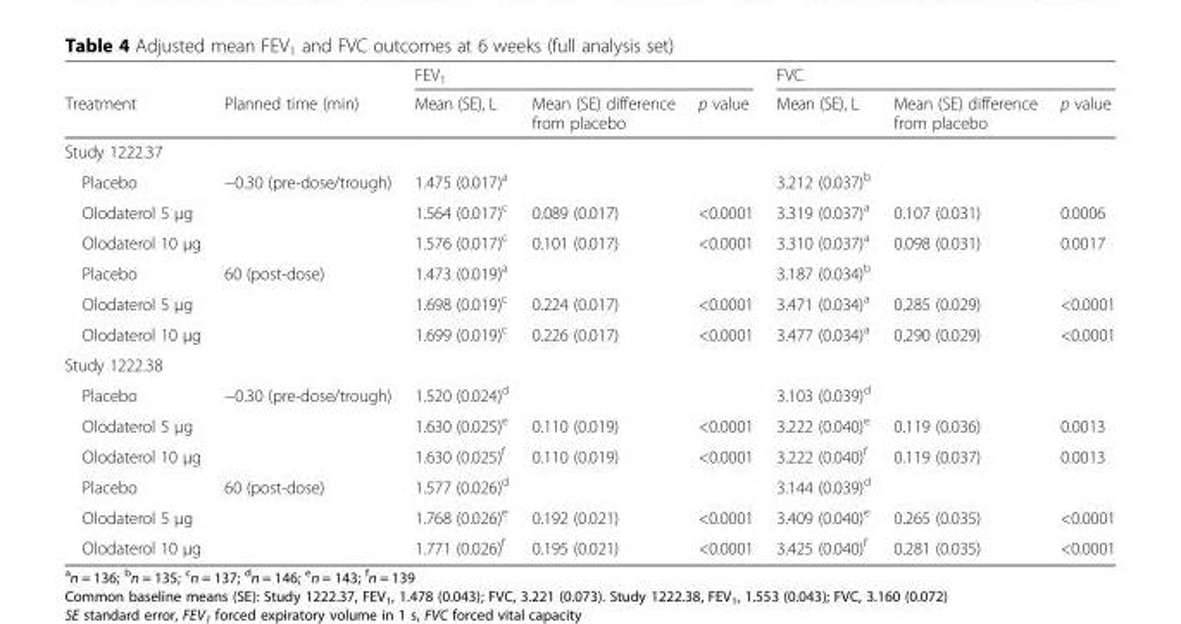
<table><thead><tr><td rowspan="2">Treatment</td><td rowspan="2">Planned time (min)</td><td colspan="3">FEV<sub>1</sub></td><td colspan="3">FVC</td></tr><tr><td>Mean (SE), L</td><td>Mean (SE) difference from placebo</td><td>p value</td><td>Mean (SE), L</td><td>Mean (SE) difference from placebo</td><td>p value</td></tr></thead><tbody><tr><td colspan="8">Study 1222.37</td></tr><tr><td>Placebo</td><td>−0.30 (pre-dose/trough)</td><td>1.475 (0.017)<sup>a</sup></td><td></td><td></td><td>3.212 (0.037)<sup>b</sup></td><td></td><td></td></tr><tr><td>Olodaterol 5 μg</td><td></td><td>1.564 (0.017)<sup>c</sup></td><td>0.089 (0.017)</td><td>&lt;0.0001</td><td>3.319 (0.037)<sup>a</sup></td><td>0.107 (0.031)</td><td>0.0006</td></tr><tr><td>Olodaterol 10 μg</td><td></td><td>1.576 (0.017)<sup>c</sup></td><td>0.101 (0.017)</td><td>&lt;0.0001</td><td>3.310 (0.037)<sup>a</sup></td><td>0.098 (0.031)</td><td>0.0017</td></tr><tr><td>Placebo</td><td>60 (post-dose)</td><td>1.473 (0.019)<sup>a</sup></td><td></td><td></td><td>3.187 (0.034)<sup>b</sup></td><td></td><td></td></tr><tr><td>Olodaterol 5 μg</td><td></td><td>1.698 (0.019)<sup>c</sup></td><td>0.224 (0.017)</td><td>&lt;0.0001</td><td>3.471 (0.034)<sup>a</sup></td><td>0.285 (0.029)</td><td>&lt;0.0001</td></tr><tr><td>Olodaterol 10 μg</td><td></td><td>1.699 (0.019)<sup>c</sup></td><td>0.226 (0.017)</td><td>&lt;0.0001</td><td>3.477 (0.034)<sup>a</sup></td><td>0.290 (0.029)</td><td>&lt;0.0001</td></tr><tr><td colspan="8">Study 1222.38</td></tr><tr><td>Placebo</td><td>−0.30 (pre-dose/trough)</td><td>1.520 (0.024)<sup>d</sup></td><td></td><td></td><td>3.103 (0.039)<sup>d</sup></td><td></td><td></td></tr><tr><td>Olodaterol 5 μg</td><td></td><td>1.630 (0.025)<sup>e</sup></td><td>0.110 (0.019)</td><td>&lt;0.0001</td><td>3.222 (0.040)<sup>e</sup></td><td>0.119 (0.036)</td><td>0.0013</td></tr><tr><td>Olodaterol 10 μg</td><td></td><td>1.630 (0.025)<sup>f</sup></td><td>0.110 (0.019)</td><td>&lt;0.0001</td><td>3.222 (0.040)<sup>f</sup></td><td>0.119 (0.037)</td><td>0.0013</td></tr><tr><td>Placebo</td><td>60 (post-dose)</td><td>1.577 (0.026)<sup>d</sup></td><td></td><td></td><td>3.144 (0.039)<sup>d</sup></td><td></td><td></td></tr><tr><td>Olodaterol 5 μg</td><td></td><td>1.768 (0.026)<sup>e</sup></td><td>0.192 (0.021)</td><td>&lt;0.0001</td><td>3.409 (0.040)<sup>e</sup></td><td>0.265 (0.035)</td><td>&lt;0.0001</td></tr><tr><td>Olodaterol 10 μg</td><td></td><td>1.771 (0.026)<sup>f</sup></td><td>0.195 (0.021)</td><td>&lt;0.0001</td><td>3.425 (0.040)<sup>f</sup></td><td>0.281 (0.035)</td><td>&lt;0.0001</td></tr></tbody></table>